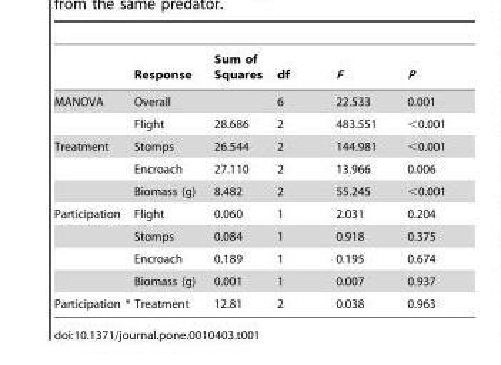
<table><thead><tr><td></td><td>Response</td><td>Sum of Squares</td><td>df</td><td>F</td><td>P</td></tr></thead><tbody><tr><td rowspan="2">MANOVA</td><td colspan="2">Overall</td><td>6</td><td>22.533</td><td>0.001</td></tr><tr><td>Flight</td><td>28.686</td><td>2</td><td>483.551</td><td>&lt;0.001</td></tr><tr><td rowspan="3">Treatment</td><td>Stomps</td><td>26.544</td><td>2</td><td>144.981</td><td>&lt;0.001</td></tr><tr><td>Encroach</td><td>27.110</td><td>2</td><td>13.966</td><td>0.006</td></tr><tr><td>Biomass (g)</td><td>8.482</td><td>2</td><td>55.245</td><td>&lt;0.001</td></tr><tr><td rowspan="4">Participation</td><td>Flight</td><td>0.060</td><td>1</td><td>2.031</td><td>0.204</td></tr><tr><td>Stomps</td><td>0.084</td><td>1</td><td>0.918</td><td>0.375</td></tr><tr><td>Encroach</td><td>0.189</td><td>1</td><td>0.195</td><td>0.674</td></tr><tr><td>Biomass (g)</td><td>0.001</td><td>1</td><td>0.007</td><td>0.937</td></tr><tr><td colspan="2">Participation * Treatment</td><td>12.81</td><td>2</td><td>0.038</td><td>0.963</td></tr></tbody></table>